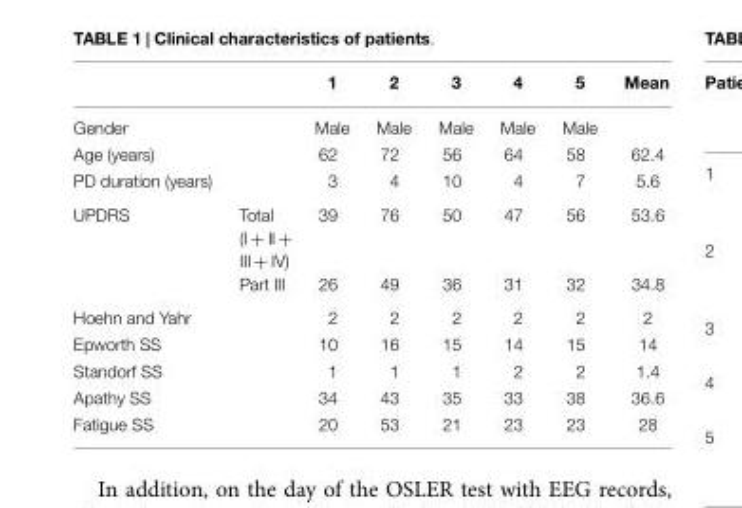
<table><thead><tr><td></td><td></td><td>1</td><td>2</td><td>3</td><td>4</td><td>5</td><td>Mean</td></tr></thead><tbody><tr><td>Gender</td><td></td><td>Male</td><td>Male</td><td>Male</td><td>Male</td><td>Male</td><td></td></tr><tr><td>Age (years)</td><td></td><td>62</td><td>72</td><td>56</td><td>64</td><td>58</td><td>62.4</td></tr><tr><td>PD duration (years)</td><td></td><td>3</td><td>4</td><td>10</td><td>4</td><td>7</td><td>5.6</td></tr><tr><td rowspan="2">UPDRS</td><td>Total (I + II + III + IV)</td><td>39</td><td>76</td><td>50</td><td>47</td><td>56</td><td>53.6</td></tr><tr><td>Part III</td><td>26</td><td>49</td><td>36</td><td>31</td><td>32</td><td>34.8</td></tr><tr><td>Hoehn and Yahr</td><td></td><td>2</td><td>2</td><td>2</td><td>2</td><td>2</td><td>2</td></tr><tr><td>Epworth SS</td><td></td><td>10</td><td>16</td><td>15</td><td>14</td><td>15</td><td>14</td></tr><tr><td>Standorf SS</td><td></td><td>1</td><td>1</td><td>1</td><td>2</td><td>2</td><td>1.4</td></tr><tr><td>Apathy SS</td><td></td><td>34</td><td>43</td><td>35</td><td>33</td><td>38</td><td>36.6</td></tr><tr><td>Fatigue SS</td><td></td><td>20</td><td>53</td><td>21</td><td>23</td><td>23</td><td>28</td></tr></tbody></table>